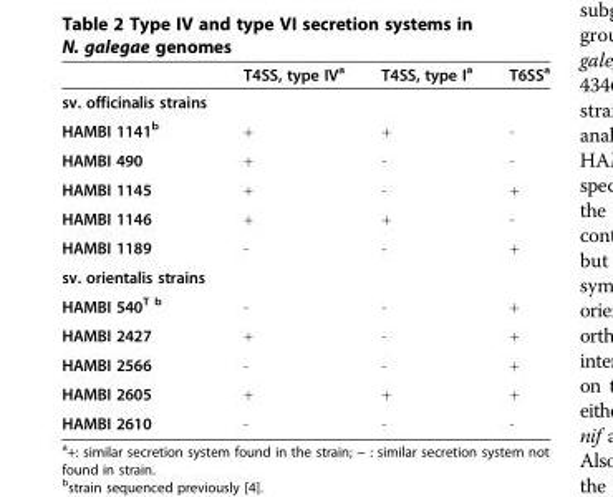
<table><thead><tr><td></td><td>T4SS, type IV<sup>a</sup></td><td>T4SS, type I<sup>a</sup></td><td>T6SS<sup>a</sup></td></tr></thead><tbody><tr><td colspan="4">sv. officinalis strains</td></tr><tr><td>HAMBI 1141<sup>b</sup></td><td>+</td><td>+</td><td>-</td></tr><tr><td>HAMBI 490</td><td>+</td><td>-</td><td>-</td></tr><tr><td>HAMBI 1145</td><td>+</td><td>-</td><td>+</td></tr><tr><td>HAMBI 1146</td><td>+</td><td>+</td><td>-</td></tr><tr><td>HAMBI 1189</td><td>-</td><td>-</td><td>+</td></tr><tr><td colspan="4">sv. orientalis strains</td></tr><tr><td>HAMBI 540<sup>T b</sup></td><td>-</td><td>-</td><td>+</td></tr><tr><td>HAMBI 2427</td><td>+</td><td>-</td><td>+</td></tr><tr><td>HAMBI 2566</td><td>-</td><td>-</td><td>+</td></tr><tr><td>HAMBI 2605</td><td>+</td><td>+</td><td>+</td></tr><tr><td>HAMBI 2610</td><td>-</td><td>-</td><td>-</td></tr></tbody></table>